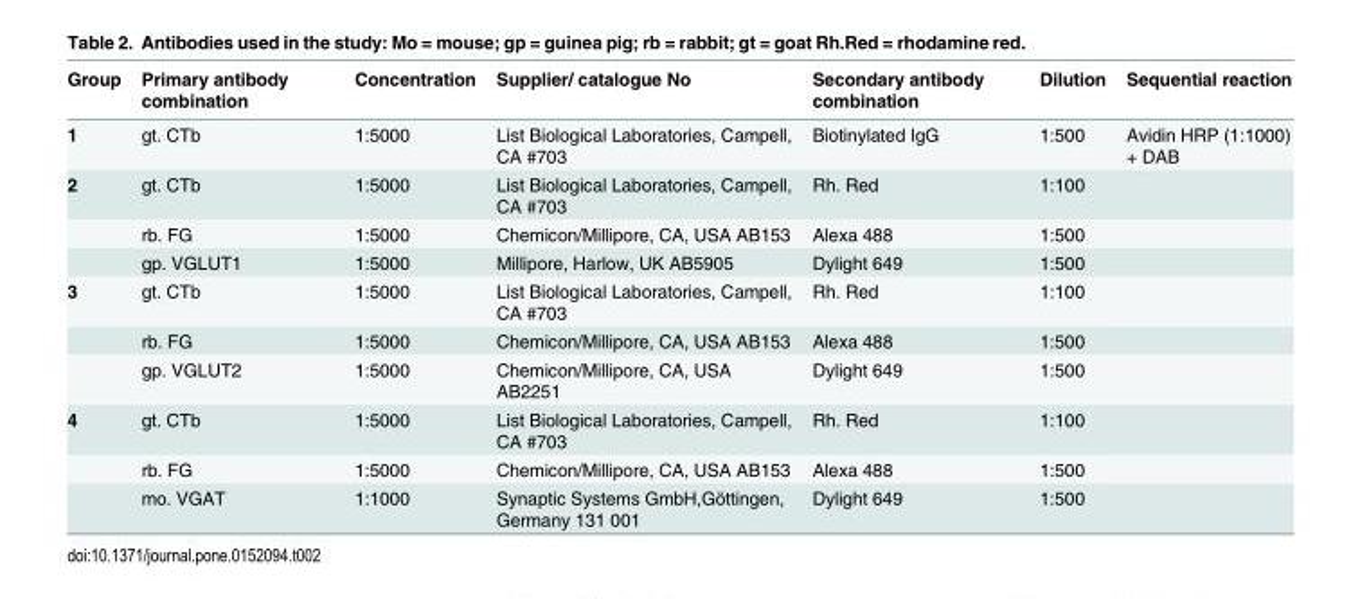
<table><thead><tr><td>Group</td><td>Primary antibody combination</td><td>Concentration</td><td>Supplier/ catalogue No</td><td>Secondary antibody combination</td><td>Dilution</td><td>Sequential reaction</td></tr></thead><tbody><tr><td>1</td><td>gt. CTb</td><td>1:5000</td><td>List Biological Laboratories, Campell, CA #703</td><td>Biotinylated IgG</td><td>1:500</td><td>Avidin HRP (1:1000) + DAB</td></tr><tr><td rowspan="3">2</td><td>gt. CTb</td><td>1:5000</td><td>List Biological Laboratories, Campell, CA #703</td><td>Rh. Red</td><td>1:100</td><td></td></tr><tr><td>rb. FG</td><td>1:5000</td><td>Chemicon/Millipore, CA, USA AB153</td><td>Alexa 488</td><td>1:500</td><td></td></tr><tr><td>gp. VGLUT1</td><td>1:5000</td><td>Millipore, Harlow, UK AB5905</td><td>Dylight 649</td><td>1:500</td><td></td></tr><tr><td rowspan="3">3</td><td>gt. CTb</td><td>1:5000</td><td>List Biological Laboratories, Campell, CA #703</td><td>Rh. Red</td><td>1:100</td><td></td></tr><tr><td>rb. FG</td><td>1:5000</td><td>Chemicon/Millipore, CA, USA AB153</td><td>Alexa 488</td><td>1:500</td><td></td></tr><tr><td>gp. VGLUT2</td><td>1:5000</td><td>Chemicon/Millipore, CA, USA AB2251</td><td>Dylight 649</td><td>1:500</td><td></td></tr><tr><td rowspan="3">4</td><td>gt. CTb</td><td>1:5000</td><td>List Biological Laboratories, Campell, CA #703</td><td>Rh. Red</td><td>1:100</td><td></td></tr><tr><td>rb. FG</td><td>1:5000</td><td>Chemicon/Millipore, CA, USA AB153</td><td>Alexa 488</td><td>1:500</td><td></td></tr><tr><td>mo. VGAT</td><td>1:1000</td><td>Synaptic Systems GmbH,Göttingen, Germany 131 001</td><td>Dylight 649</td><td>1:500</td><td></td></tr></tbody></table>